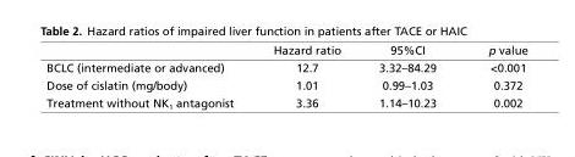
<table><thead><tr><td></td><td>Hazard ratio</td><td>95%CI</td><td>p value</td></tr></thead><tbody><tr><td>BCLC (intermediate or advanced)</td><td>12.7</td><td>3.32–84.29</td><td>&lt;0.001</td></tr><tr><td>Dose of cislatin (mg/body)</td><td>1.01</td><td>0.99–1.03</td><td>0.372</td></tr><tr><td>Treatment without NK<sub>1</sub> antagonist</td><td>3.36</td><td>1.14–10.23</td><td>0.002</td></tr></tbody></table>